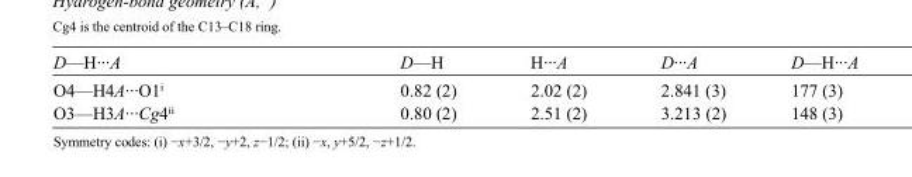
<table><tbody><tr><td>D—H···A</td><td>D—H</td><td>H···A</td><td>D···A</td><td>D—H···A</td></tr><tr><td>O4—H4A···O1<sup>i</sup></td><td>0.82 (2)</td><td>2.02 (2)</td><td>2.841 (3)</td><td>177 (3)</td></tr><tr><td>O3—H3A···Cg4<sup>ii</sup></td><td>0.80 (2)</td><td>2.51 (2)</td><td>3.213 (2)</td><td>148 (3)</td></tr></tbody></table>